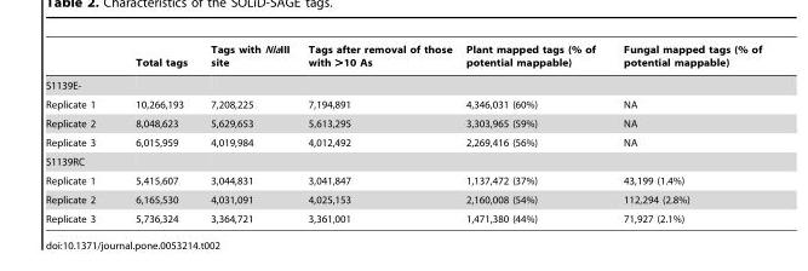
<table><thead><tr><td></td><td>Total tags</td><td>Tags with NlaIII site</td><td>Tags after removal of those with &gt;10 As</td><td>Plant mapped tags (% of potential mappable)</td><td>Fungal mapped tags (% of potential mappable)</td></tr></thead><tbody><tr><td colspan="6">S1139E-</td></tr><tr><td>Replicate 1</td><td>10,266,193</td><td>7,208,225</td><td>7,194,891</td><td>4,346,031 (60%)</td><td>NA</td></tr><tr><td>Replicate 2</td><td>8,048,623</td><td>5,629,653</td><td>5,613,295</td><td>3,303,965 (59%)</td><td>NA</td></tr><tr><td>Replicate 3</td><td>6,015,959</td><td>4,019,984</td><td>4,012,492</td><td>2,269,416 (56%)</td><td>NA</td></tr><tr><td colspan="6">S1139RC</td></tr><tr><td>Replicate 1</td><td>5,415,607</td><td>3,044,831</td><td>3,041,847</td><td>1,137,472 (37%)</td><td>43,199 (1.4%)</td></tr><tr><td>Replicate 2</td><td>6,165,530</td><td>4,031,091</td><td>4,025,153</td><td>2,160,008 (54%)</td><td>112,294 (2.8%)</td></tr><tr><td>Replicate 3</td><td>5,736,324</td><td>3,364,721</td><td>3,361,001</td><td>1,471,380 (44%)</td><td>71,927 (2.1%)</td></tr></tbody></table>